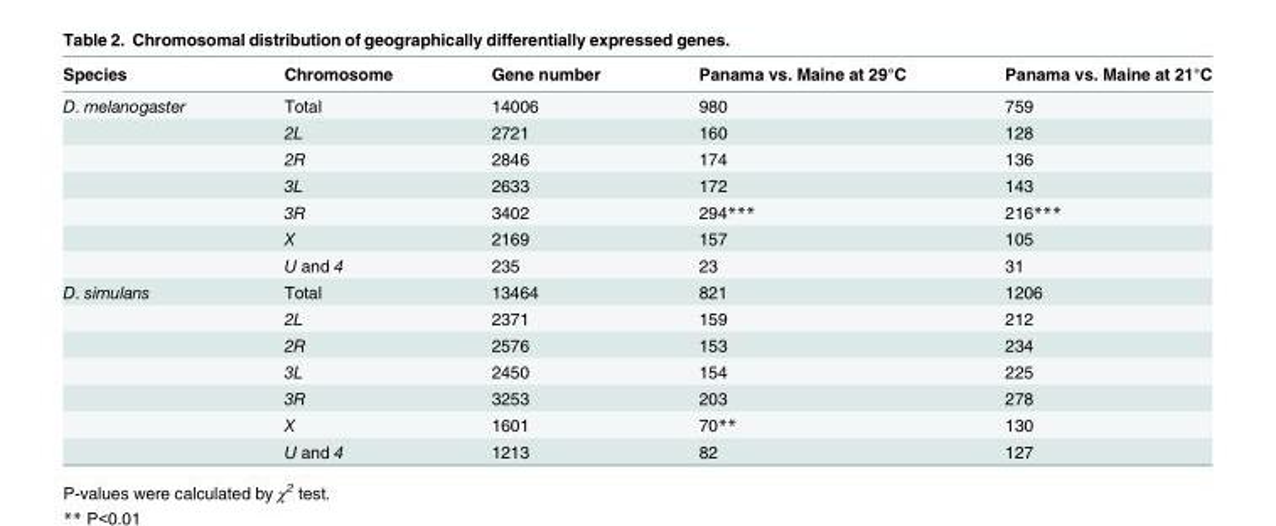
<table><thead><tr><td>Species</td><td>Chromosome</td><td>Gene number</td><td>Panama vs. Maine at 29°C</td><td>Panama vs. Maine at 21°C</td></tr></thead><tbody><tr><td rowspan="7">D. melanogaster</td><td>Total</td><td>14006</td><td>980</td><td>759</td></tr><tr><td>2L</td><td>2721</td><td>160</td><td>128</td></tr><tr><td>2R</td><td>2846</td><td>174</td><td>136</td></tr><tr><td>3L</td><td>2633</td><td>172</td><td>143</td></tr><tr><td>3R</td><td>3402</td><td>294***</td><td>216***</td></tr><tr><td>X</td><td>2169</td><td>157</td><td>105</td></tr><tr><td>U and 4</td><td>235</td><td>23</td><td>31</td></tr><tr><td rowspan="7">D. simulans</td><td>Total</td><td>13464</td><td>821</td><td>1206</td></tr><tr><td>2L</td><td>2371</td><td>159</td><td>212</td></tr><tr><td>2R</td><td>2576</td><td>153</td><td>234</td></tr><tr><td>3L</td><td>2450</td><td>154</td><td>225</td></tr><tr><td>3R</td><td>3253</td><td>203</td><td>278</td></tr><tr><td>X</td><td>1601</td><td>70**</td><td>130</td></tr><tr><td>U and 4</td><td>1213</td><td>82</td><td>127</td></tr></tbody></table>